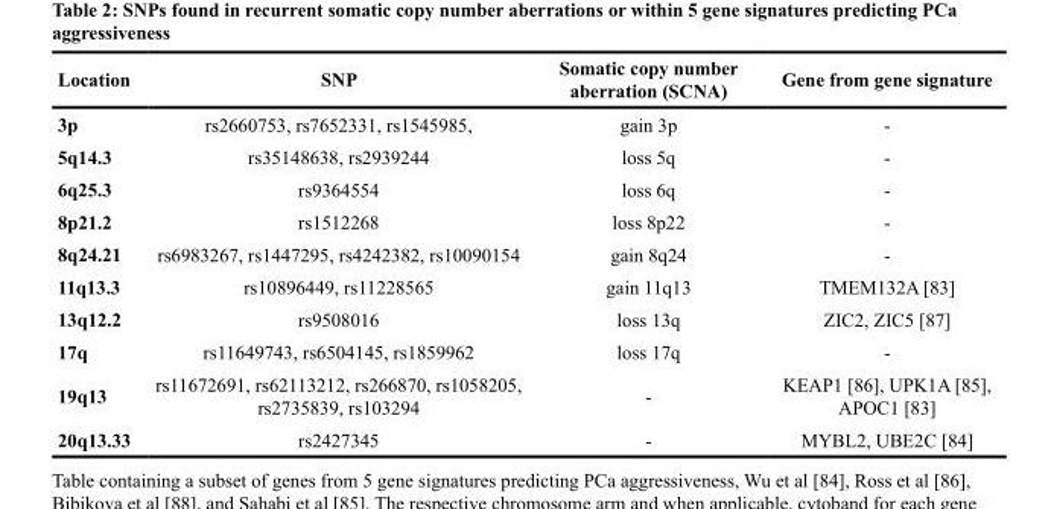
<table><thead><tr><td>Location</td><td>SNP</td><td>Somatic copy number aberration (SCNA)</td><td>Gene from gene signature</td></tr></thead><tbody><tr><td>3p</td><td>rs2660753, rs7652331, rs1545985,</td><td>gain 3p</td><td>-</td></tr><tr><td>5q14.3</td><td>rs35148638, rs2939244</td><td>loss 5q</td><td>-</td></tr><tr><td>6q25.3</td><td>rs9364554</td><td>loss 6q</td><td>-</td></tr><tr><td>8p21.2</td><td>rs1512268</td><td>loss 8p22</td><td>-</td></tr><tr><td>8q24.21</td><td>rs6983267, rs1447295, rs4242382, rs10090154</td><td>gain 8q24</td><td>-</td></tr><tr><td>11q13.3</td><td>rs10896449, rs11228565</td><td>gain 11q13</td><td>TMEM132A [83]</td></tr><tr><td>13q12.2</td><td>rs9508016</td><td>loss 13q</td><td>ZIC2, ZIC5 [87]</td></tr><tr><td>17q</td><td>rs11649743, rs6504145, rs1859962</td><td>loss 17q</td><td>-</td></tr><tr><td>19q13</td><td>rs11672691, rs62113212, rs266870, rs1058205, rs2735839, rs103294</td><td>-</td><td>KEAP1 [86], UPK1A [85], APOC1 [83]</td></tr><tr><td>20q13.33</td><td>rs2427345</td><td>-</td><td>MYBL2, UBE2C [84]</td></tr></tbody></table>